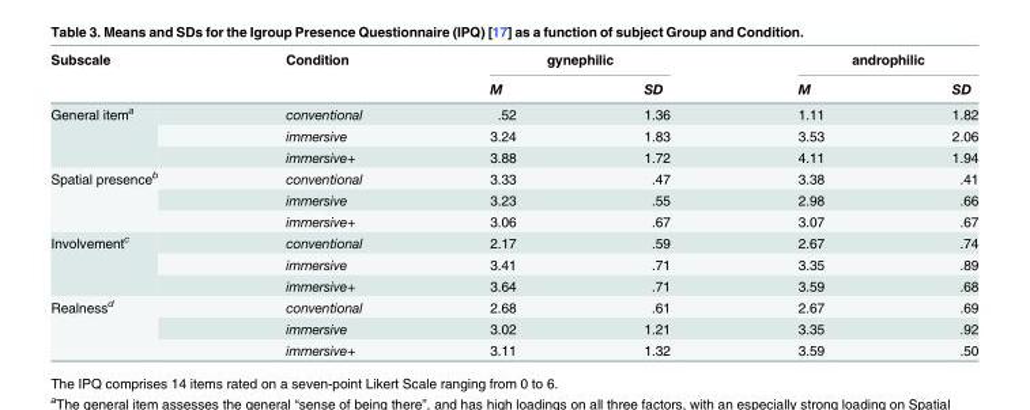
<table><thead><tr><td rowspan="2">Subscale</td><td rowspan="2">Condition</td><td colspan="2">gynephilic</td><td colspan="2">androphilic</td></tr><tr><td>M</td><td>SD</td><td>M</td><td>SD</td></tr></thead><tbody><tr><td rowspan="3">General item<sup>a</sup></td><td>conventional</td><td>.52</td><td>1.36</td><td>1.11</td><td>1.82</td></tr><tr><td>immersive</td><td>3.24</td><td>1.83</td><td>3.53</td><td>2.06</td></tr><tr><td>immersive+</td><td>3.88</td><td>1.72</td><td>4.11</td><td>1.94</td></tr><tr><td rowspan="3">Spatial presence<sup>b</sup></td><td>conventional</td><td>3.33</td><td>.47</td><td>3.38</td><td>.41</td></tr><tr><td>immersive</td><td>3.23</td><td>.55</td><td>2.98</td><td>.66</td></tr><tr><td>immersive+</td><td>3.06</td><td>.67</td><td>3.07</td><td>.67</td></tr><tr><td rowspan="3">Involvement<sup>c</sup></td><td>conventional</td><td>2.17</td><td>.59</td><td>2.67</td><td>.74</td></tr><tr><td>immersive</td><td>3.41</td><td>.71</td><td>3.35</td><td>.89</td></tr><tr><td>immersive+</td><td>3.64</td><td>.71</td><td>3.59</td><td>.68</td></tr><tr><td rowspan="3">Realness<sup>d</sup></td><td>conventional</td><td>2.68</td><td>.61</td><td>2.67</td><td>.69</td></tr><tr><td>immersive</td><td>3.02</td><td>1.21</td><td>3.35</td><td>.92</td></tr><tr><td>immersive+</td><td>3.11</td><td>1.32</td><td>3.59</td><td>.50</td></tr></tbody></table>